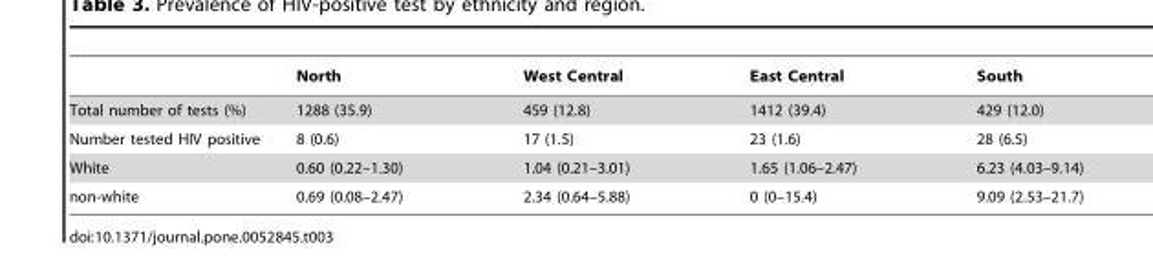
<table><thead><tr><td></td><td>North</td><td>West Central</td><td>East Central</td><td>South</td></tr></thead><tbody><tr><td>Total number of tests (%)</td><td>1288 (35.9)</td><td>459 (12.8)</td><td>1412 (39.4)</td><td>429 (12.0)</td></tr><tr><td>Number tested HIV positive</td><td>8 (0.6)</td><td>17 (1.5)</td><td>23 (1.6)</td><td>28 (6.5)</td></tr><tr><td>White</td><td>0.60 (0.22–1.30)</td><td>1.04 (0.21–3.01)</td><td>1.65 (1.06–2.47)</td><td>6.23 (4.03–9.14)</td></tr><tr><td>non-white</td><td>0.69 (0.08–2.47)</td><td>2.34 (0.64–5.88)</td><td>0 (0–15.4)</td><td>9.09 (2.53–21.7)</td></tr></tbody></table>